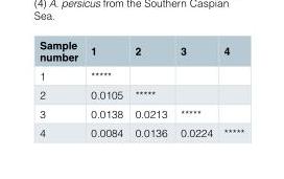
<table><thead><tr><td>Sample number</td><td>1</td><td>2</td><td>3</td><td>4</td></tr></thead><tbody><tr><td>1</td><td>*****</td><td></td><td></td><td></td></tr><tr><td>2</td><td>0.0105</td><td>*****</td><td></td><td></td></tr><tr><td>3</td><td>0.0138</td><td>0.0213</td><td>*****</td><td></td></tr><tr><td>4</td><td>0.0084</td><td>0.0136</td><td>0.0224</td><td>*****</td></tr></tbody></table>